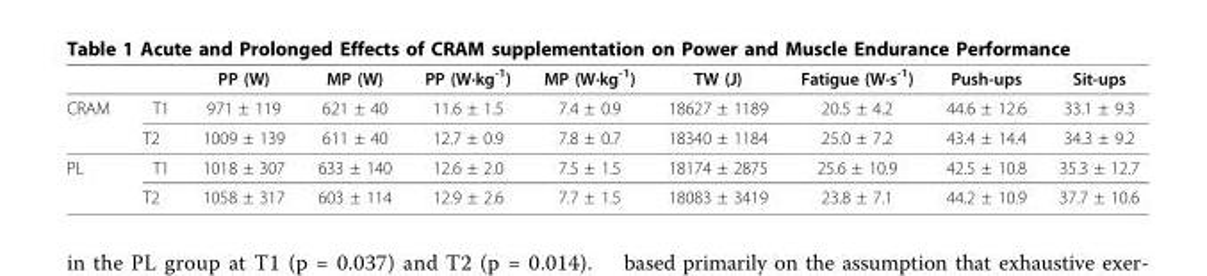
<table><thead><tr><td></td><td></td><td>PP (W)</td><td>MP (W)</td><td>PP (W·kg<sup>-1</sup>)</td><td>MP (W·kg<sup>-1</sup>)</td><td>TW (J)</td><td>Fatigue (W·s<sup>-1</sup>)</td><td>Push-ups</td><td>Sit-ups</td></tr></thead><tbody><tr><td rowspan="2">CRAM</td><td>T1</td><td>971 ± 119</td><td>621 ± 40</td><td>11.6 ± 1.5</td><td>7.4 ± 0.9</td><td>18627 ± 1189</td><td>20.5 ± 4.2</td><td>44.6 ± 12.6</td><td>33.1 ± 9.3</td></tr><tr><td>T2</td><td>1009 ± 139</td><td>611 ± 40</td><td>12.7 ± 0.9</td><td>7.8 ± 0.7</td><td>18340 ± 1184</td><td>25.0 ± 7.2</td><td>43.4 ± 14.4</td><td>34.3 ± 9.2</td></tr><tr><td rowspan="2">PL</td><td>T1</td><td>1018 ± 307</td><td>633 ± 140</td><td>12.6 ± 2.0</td><td>7.5 ± 1.5</td><td>18174 ± 2875</td><td>25.6 ± 10.9</td><td>42.5 ± 10.8</td><td>35.3 ± 12.7</td></tr><tr><td>T2</td><td>1058 ± 317</td><td>603 ± 114</td><td>12.9 ± 2.6</td><td>7.7 ± 1.5</td><td>18083 ± 3419</td><td>23.8 ± 7.1</td><td>44.2 ± 10.9</td><td>37.7 ± 10.6</td></tr></tbody></table>